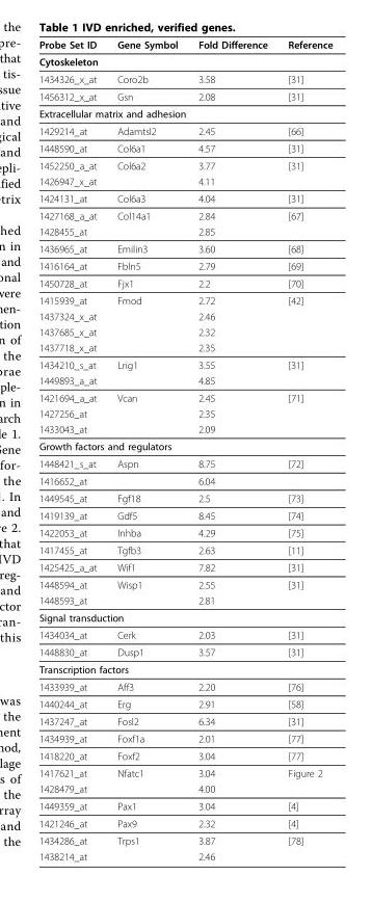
<table><thead><tr><td>Probe Set ID</td><td>Gene Symbol</td><td>Fold Difference</td><td>Reference</td></tr></thead><tbody><tr><td colspan="4">Cytoskeleton</td></tr><tr><td>1434326_x_at</td><td>Coro2b</td><td>3.58</td><td>[31]</td></tr><tr><td>1456312_x_at</td><td>Gsn</td><td>2.08</td><td>[31]</td></tr><tr><td colspan="4">Extracellular matrix and adhesion</td></tr><tr><td>1429214_at</td><td>Adamtsl2</td><td>2.45</td><td>[66]</td></tr><tr><td>1448590_at</td><td>Col6a1</td><td>4.57</td><td>[31]</td></tr><tr><td>1452250_a_at</td><td>Col6a2</td><td>3.77</td><td>[31]</td></tr><tr><td>1426947_x_at</td><td></td><td>4.11</td><td></td></tr><tr><td>1424131_at</td><td>Col6a3</td><td>4.04</td><td>[31]</td></tr><tr><td>1427168_a_at</td><td>Col14a1</td><td>2.84</td><td>[67]</td></tr><tr><td>1428455_at</td><td></td><td>2.85</td><td></td></tr><tr><td>1436965_at</td><td>Emilin3</td><td>3.60</td><td>[68]</td></tr><tr><td>1416164_at</td><td>Fbln5</td><td>2.79</td><td>[69]</td></tr><tr><td>1450728_at</td><td>Fjx1</td><td>2.2</td><td>[70]</td></tr><tr><td>1415939_at</td><td>Fmod</td><td>2.72</td><td>[42]</td></tr><tr><td>1437324_x_at</td><td></td><td>2.46</td><td></td></tr><tr><td>1437685_x_at</td><td></td><td>2.32</td><td></td></tr><tr><td>1437718_x_at</td><td></td><td>2.35</td><td></td></tr><tr><td>1434210_s_at</td><td>Lrig1</td><td>3.55</td><td>[31]</td></tr><tr><td>1449893_a_at</td><td></td><td>4.85</td><td></td></tr><tr><td>1421694_a_at</td><td>Vcan</td><td>2.45</td><td>[71]</td></tr><tr><td>1427256_at</td><td></td><td>2.35</td><td></td></tr><tr><td>1433043_at</td><td></td><td>2.09</td><td></td></tr><tr><td colspan="4">Growth factors and regulators</td></tr><tr><td>1448421_s_at</td><td>Aspn</td><td>8.75</td><td>[72]</td></tr><tr><td>1416652_at</td><td></td><td>6.04</td><td></td></tr><tr><td>1449545_at</td><td>Fgf18</td><td>2.5</td><td>[73]</td></tr><tr><td>1419139_at</td><td>Gdf5</td><td>8.45</td><td>[74]</td></tr><tr><td>1422053_at</td><td>Inhba</td><td>4.29</td><td>[75]</td></tr><tr><td>1417455_at</td><td>Tgfb3</td><td>2.63</td><td>[11]</td></tr><tr><td>1425425_a_at</td><td>Wif1</td><td>7.82</td><td>[31]</td></tr><tr><td>1448594_at</td><td>Wisp1</td><td>2.55</td><td>[31]</td></tr><tr><td>1448593_at</td><td></td><td>2.81</td><td></td></tr><tr><td colspan="4">Signal transduction</td></tr><tr><td>1434034_at</td><td>Cerk</td><td>2.03</td><td>[31]</td></tr><tr><td>1448830_at</td><td>Dusp1</td><td>3.57</td><td>[31]</td></tr><tr><td colspan="4">Transcription factors</td></tr><tr><td>1433939_at</td><td>Aff3</td><td>2.20</td><td>[76]</td></tr><tr><td>1440244_at</td><td>Erg</td><td>2.91</td><td>[58]</td></tr><tr><td>1437247_at</td><td>Fosl2</td><td>6.34</td><td>[31]</td></tr><tr><td>1434939_at</td><td>Foxf1a</td><td>2.01</td><td>[77]</td></tr><tr><td>1418220_at</td><td>Foxf2</td><td>3.04</td><td>[77]</td></tr><tr><td>1417621_at</td><td>Nfatc1</td><td>3.04</td><td>Figure 2</td></tr><tr><td>1428479_at</td><td></td><td>4.00</td><td></td></tr><tr><td>1449359_at</td><td>Pax1</td><td>3.04</td><td>[4]</td></tr><tr><td>1421246_at</td><td>Pax9</td><td>2.32</td><td>[4]</td></tr><tr><td>1434286_at</td><td>Trps1</td><td>3.87</td><td>[78]</td></tr><tr><td>1438214_at</td><td></td><td>2.46</td><td></td></tr></tbody></table>